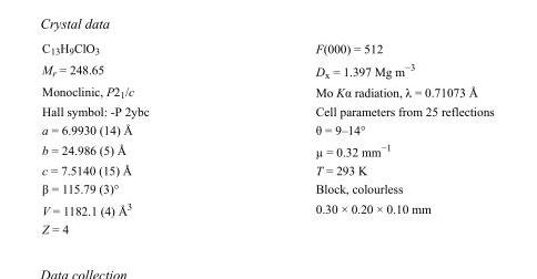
<table><tbody><tr><td>C<sub>13</sub>H<sub>9</sub>ClO<sub>3</sub></td><td>F(000) = 512</td></tr><tr><td>M<sub>r</sub> = 248.65</td><td>D<sub>x</sub> = 1.397 Mg m<sup>−3</sup></td></tr><tr><td>Monoclinic, P2<sub>1</sub>/c</td><td>Mo Kα radiation, λ = 0.71073 Å</td></tr><tr><td>Hall symbol: -P 2ybc</td><td>Cell parameters from 25 reflections</td></tr><tr><td>a = 6.9930 (14) Å</td><td>θ = 9–14°</td></tr><tr><td>b = 24.986 (5) Å</td><td>µ = 0.32 mm<sup>−1</sup></td></tr><tr><td>c = 7.5140 (15) Å</td><td>T = 293 K</td></tr><tr><td>β = 115.79 (3)°</td><td>Block, colourless</td></tr><tr><td>V = 1182.1 (4) Å<sup>3</sup></td><td>0.30 × 0.20 × 0.10 mm</td></tr><tr><td>Z = 4</td><td></td></tr></tbody></table>